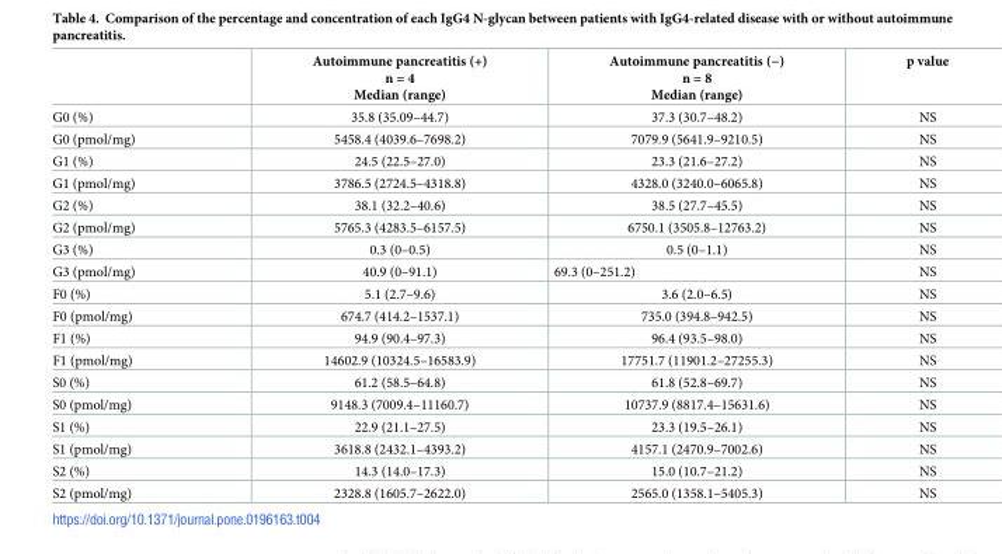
<table><thead><tr><td></td><td>Autoimmune pancreatitis (+) n = 4 Median (range)</td><td>Autoimmune pancreatitis (−) n = 8 Median (range)</td><td>p value</td></tr></thead><tbody><tr><td>G0 (%)</td><td>35.8 (35.09–44.7)</td><td>37.3 (30.7–48.2)</td><td>NS</td></tr><tr><td>G0 (pmol/mg)</td><td>5458.4 (4039.6–7698.2)</td><td>7079.9 (5641.9–9210.5)</td><td>NS</td></tr><tr><td>G1 (%)</td><td>24.5 (22.5–27.0)</td><td>23.3 (21.6–27.2)</td><td>NS</td></tr><tr><td>G1 (pmol/mg)</td><td>3786.5 (2724.5–4318.8)</td><td>4328.0 (3240.0–6065.8)</td><td>NS</td></tr><tr><td>G2 (%)</td><td>38.1 (32.2–40.6)</td><td>38.5 (27.7–45.5)</td><td>NS</td></tr><tr><td>G2 (pmol/mg)</td><td>5765.3 (4283.5–6157.5)</td><td>6750.1 (3505.8–12763.2)</td><td>NS</td></tr><tr><td>G3 (%)</td><td>0.3 (0–0.5)</td><td>0.5 (0–1.1)</td><td>NS</td></tr><tr><td>G3 (pmol/mg)</td><td>40.9 (0–91.1)</td><td>69.3 (0–251.2)</td><td>NS</td></tr><tr><td>F0 (%)</td><td>5.1 (2.7–9.6)</td><td>3.6 (2.0–6.5)</td><td>NS</td></tr><tr><td>F0 (pmol/mg)</td><td>674.7 (414.2–1537.1)</td><td>735.0 (394.8–942.5)</td><td>NS</td></tr><tr><td>F1 (%)</td><td>94.9 (90.4–97.3)</td><td>96.4 (93.5–98.0)</td><td>NS</td></tr><tr><td>F1 (pmol/mg)</td><td>14602.9 (10324.5–16583.9)</td><td>17751.7 (11901.2–27255.3)</td><td>NS</td></tr><tr><td>S0 (%)</td><td>61.2 (58.5–64.8)</td><td>61.8 (52.8–69.7)</td><td>NS</td></tr><tr><td>S0 (pmol/mg)</td><td>9148.3 (7009.4–11160.7)</td><td>10737.9 (8817.4–15631.6)</td><td>NS</td></tr><tr><td>S1 (%)</td><td>22.9 (21.1–27.5)</td><td>23.3 (19.5–26.1)</td><td>NS</td></tr><tr><td>S1 (pmol/mg)</td><td>3618.8 (2432.1–4393.2)</td><td>4157.1 (2470.9–7002.6)</td><td>NS</td></tr><tr><td>S2 (%)</td><td>14.3 (14.0–17.3)</td><td>15.0 (10.7–21.2)</td><td>NS</td></tr><tr><td>S2 (pmol/mg)</td><td>2328.8 (1605.7–2622.0)</td><td>2565.0 (1358.1–5405.3)</td><td>NS</td></tr></tbody></table>